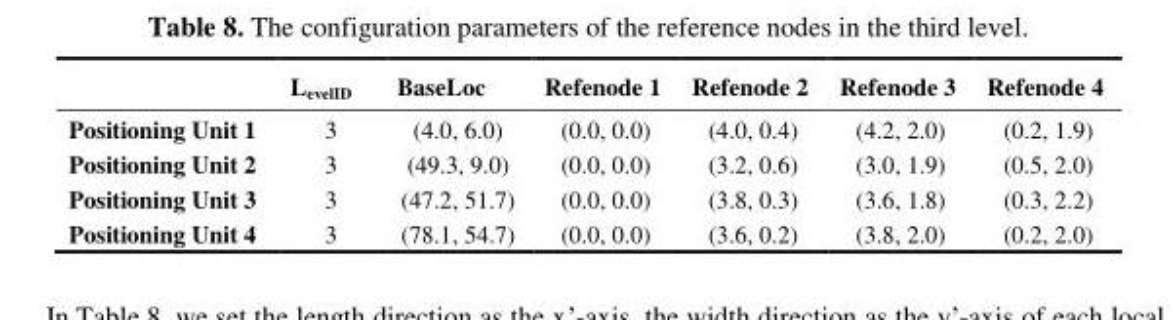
<table><thead><tr><td></td><td>L<sub>evelID</sub></td><td>BaseLoc</td><td>Refenode 1</td><td>Refenode 2</td><td>Refenode 3</td><td>Refenode 4</td></tr></thead><tbody><tr><td>Positioning Unit 1</td><td>3</td><td>(4.0, 6.0)</td><td>(0.0, 0.0)</td><td>(4.0, 0.4)</td><td>(4.2, 2.0)</td><td>(0.2, 1.9)</td></tr><tr><td>Positioning Unit 2</td><td>3</td><td>(49.3, 9.0)</td><td>(0.0, 0.0)</td><td>(3.2, 0.6)</td><td>(3.0, 1.9)</td><td>(0.5, 2.0)</td></tr><tr><td>Positioning Unit 3</td><td>3</td><td>(47.2, 51.7)</td><td>(0.0, 0.0)</td><td>(3.8, 0.3)</td><td>(3.6, 1.8)</td><td>(0.3, 2.2)</td></tr><tr><td>Positioning Unit 4</td><td>3</td><td>(78.1, 54.7)</td><td>(0.0, 0.0)</td><td>(3.6, 0.2)</td><td>(3.8, 2.0)</td><td>(0.2, 2.0)</td></tr></tbody></table>